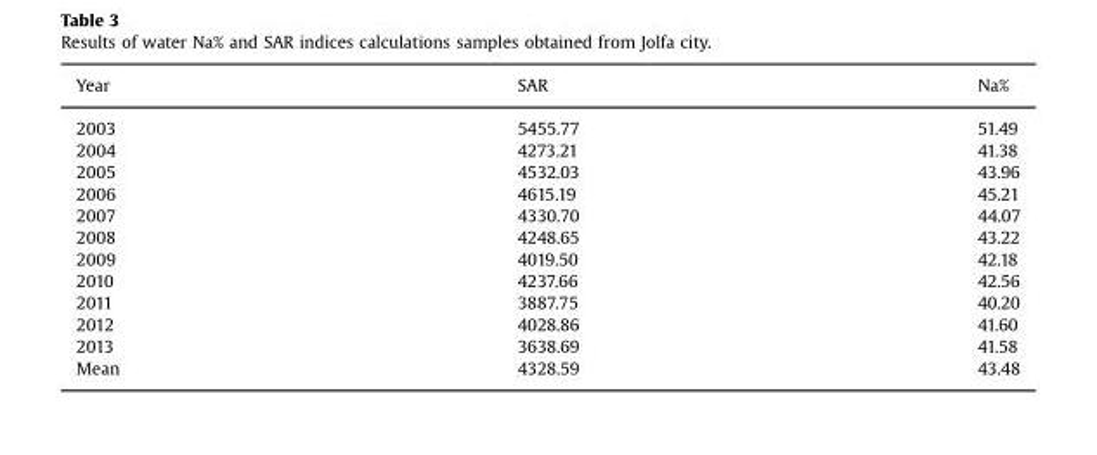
<table><thead><tr><td>Year</td><td>SAR</td><td>Na%</td></tr></thead><tbody><tr><td>2003</td><td>5455.77</td><td>51.49</td></tr><tr><td>2004</td><td>4273.21</td><td>41.38</td></tr><tr><td>2005</td><td>4532.03</td><td>43.96</td></tr><tr><td>2006</td><td>4615.19</td><td>45.21</td></tr><tr><td>2007</td><td>4330.70</td><td>44.07</td></tr><tr><td>2008</td><td>4248.65</td><td>43.22</td></tr><tr><td>2009</td><td>4019.50</td><td>42.18</td></tr><tr><td>2010</td><td>4237.66</td><td>42.56</td></tr><tr><td>2011</td><td>3887.75</td><td>40.20</td></tr><tr><td>2012</td><td>4028.86</td><td>41.60</td></tr><tr><td>2013</td><td>3638.69</td><td>41.58</td></tr><tr><td>Mean</td><td>4328.59</td><td>43.48</td></tr></tbody></table>